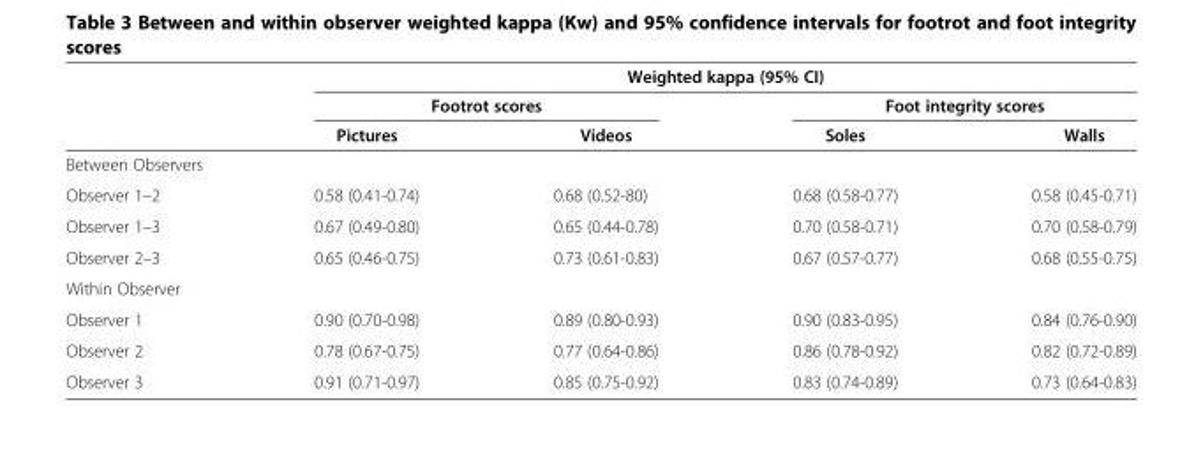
<table><thead><tr><td rowspan="3"></td><td colspan="4">Weighted kappa (95% CI)</td></tr><tr><td colspan="2">Footrot scores</td><td colspan="2">Foot integrity scores</td></tr><tr><td>Pictures</td><td>Videos</td><td>Soles</td><td>Walls</td></tr></thead><tbody><tr><td colspan="5">Between Observers</td></tr><tr><td>Observer 1–2</td><td>0.58 (0.41-0.74)</td><td>0.68 (0.52-80)</td><td>0.68 (0.58-0.77)</td><td>0.58 (0.45-0.71)</td></tr><tr><td>Observer 1–3</td><td>0.67 (0.49-0.80)</td><td>0.65 (0.44-0.78)</td><td>0.70 (0.58-0.71)</td><td>0.70 (0.58-0.79)</td></tr><tr><td>Observer 2–3</td><td>0.65 (0.46-0.75)</td><td>0.73 (0.61-0.83)</td><td>0.67 (0.57-0.77)</td><td>0.68 (0.55-0.75)</td></tr><tr><td colspan="5">Within Observer</td></tr><tr><td>Observer 1</td><td>0.90 (0.70-0.98)</td><td>0.89 (0.80-0.93)</td><td>0.90 (0.83-0.95)</td><td>0.84 (0.76-0.90)</td></tr><tr><td>Observer 2</td><td>0.78 (0.67-0.75)</td><td>0.77 (0.64-0.86)</td><td>0.86 (0.78-0.92)</td><td>0.82 (0.72-0.89)</td></tr><tr><td>Observer 3</td><td>0.91 (0.71-0.97)</td><td>0.85 (0.75-0.92)</td><td>0.83 (0.74-0.89)</td><td>0.73 (0.64-0.83)</td></tr></tbody></table>